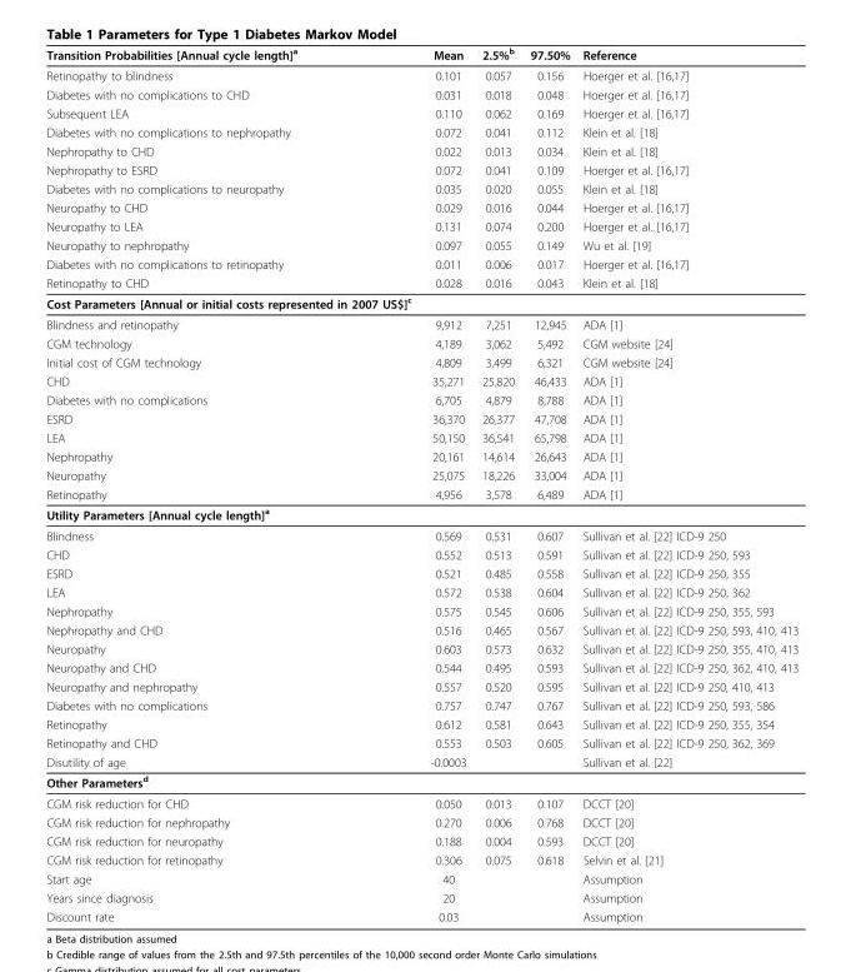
<table><thead><tr><td>Transition Probabilities [Annual cycle length]<sup>a</sup></td><td>Mean</td><td>2.5%<sup>b</sup></td><td>97.50%</td><td>Reference</td></tr></thead><tbody><tr><td>Retinopathy to blindness</td><td>0.101</td><td>0.057</td><td>0.156</td><td>Hoerger et al. [16,17]</td></tr><tr><td>Diabetes with no complications to CHD</td><td>0.031</td><td>0.018</td><td>0.048</td><td>Hoerger et al. [16,17]</td></tr><tr><td>Subsequent LEA</td><td>0.110</td><td>0.062</td><td>0.169</td><td>Hoerger et al. [16,17]</td></tr><tr><td>Diabetes with no complications to nephropathy</td><td>0.072</td><td>0.041</td><td>0.112</td><td>Klein et al. [18]</td></tr><tr><td>Nephropathy to CHD</td><td>0.022</td><td>0.013</td><td>0.034</td><td>Klein et al. [18]</td></tr><tr><td>Nephropathy to ESRD</td><td>0.072</td><td>0.041</td><td>0.109</td><td>Hoerger et al. [16,17]</td></tr><tr><td>Diabetes with no complications to neuropathy</td><td>0.035</td><td>0.020</td><td>0.055</td><td>Klein et al. [18]</td></tr><tr><td>Neuropathy to CHD</td><td>0.029</td><td>0.016</td><td>0.044</td><td>Hoerger et al. [16,17]</td></tr><tr><td>Neuropathy to LEA</td><td>0.131</td><td>0.074</td><td>0.200</td><td>Hoerger et al. [16,17]</td></tr><tr><td>Neuropathy to nephropathy</td><td>0.097</td><td>0.055</td><td>0.149</td><td>Wu et al. [19]</td></tr><tr><td>Diabetes with no complications to retinopathy</td><td>0.011</td><td>0.006</td><td>0.017</td><td>Hoerger et al. [16,17]</td></tr><tr><td>Retinopathy to CHD</td><td>0.028</td><td>0.016</td><td>0.043</td><td>Klein et al. [18]</td></tr><tr><td colspan="5">Cost Parameters [Annual or initial costs represented in 2007 US$]<sup>c</sup></td></tr><tr><td>Blindness and retinopathy</td><td>9,912</td><td>7,251</td><td>12,945</td><td>ADA [1]</td></tr><tr><td>CGM technology</td><td>4,189</td><td>3,062</td><td>5,492</td><td>CGM website [24]</td></tr><tr><td>Initial cost of CGM technology</td><td>4,809</td><td>3,499</td><td>6,321</td><td>CGM website [24]</td></tr><tr><td>CHD</td><td>35,271</td><td>25,820</td><td>46,433</td><td>ADA [1]</td></tr><tr><td>Diabetes with no complications</td><td>6,705</td><td>4,879</td><td>8,788</td><td>ADA [1]</td></tr><tr><td>ESRD</td><td>36,370</td><td>26,377</td><td>47,708</td><td>ADA [1]</td></tr><tr><td>LEA</td><td>50,150</td><td>36,541</td><td>65,798</td><td>ADA [1]</td></tr><tr><td>Nephropathy</td><td>20,161</td><td>14,614</td><td>26,643</td><td>ADA [1]</td></tr><tr><td>Neuropathy</td><td>25,075</td><td>18,226</td><td>33,004</td><td>ADA [1]</td></tr><tr><td>Retinopathy</td><td>4,956</td><td>3,578</td><td>6,489</td><td>ADA [1]</td></tr><tr><td colspan="5">Utility Parameters [Annual cycle length]<sup>a</sup></td></tr><tr><td>Blindness</td><td>0.569</td><td>0.531</td><td>0.607</td><td>Sullivan et al. [22] ICD-9 250</td></tr><tr><td>CHD</td><td>0.552</td><td>0.513</td><td>0.591</td><td>Sullivan et al. [22] ICD-9 250, 593</td></tr><tr><td>ESRD</td><td>0.521</td><td>0.485</td><td>0.558</td><td>Sullivan et al. [22] ICD-9 250, 355</td></tr><tr><td>LEA</td><td>0.572</td><td>0.538</td><td>0.604</td><td>Sullivan et al. [22] ICD-9 250, 362</td></tr><tr><td>Nephropathy</td><td>0.575</td><td>0.545</td><td>0.606</td><td>Sullivan et al. [22] ICD-9 250, 355, 593</td></tr><tr><td>Nephropathy and CHD</td><td>0.516</td><td>0.465</td><td>0.567</td><td>Sullivan et al. [22] ICD-9 250, 593, 410, 413</td></tr><tr><td>Neuropathy</td><td>0.603</td><td>0.573</td><td>0.632</td><td>Sullivan et al. [22] ICD-9 250, 355, 410, 413</td></tr><tr><td>Neuropathy and CHD</td><td>0.544</td><td>0.495</td><td>0.593</td><td>Sullivan et al. [22] ICD-9 250, 362, 410, 413</td></tr><tr><td>Neuropathy and nephropathy</td><td>0.557</td><td>0.520</td><td>0.595</td><td>Sullivan et al. [22] ICD-9 250, 410, 413</td></tr><tr><td>Diabetes with no complications</td><td>0.757</td><td>0.747</td><td>0.767</td><td>Sullivan et al. [22] ICD-9 250, 593, 586</td></tr><tr><td>Retinopathy</td><td>0.612</td><td>0.581</td><td>0.643</td><td>Sullivan et al. [22] ICD-9 250, 355, 354</td></tr><tr><td>Retinopathy and CHD</td><td>0.553</td><td>0.503</td><td>0.605</td><td>Sullivan et al. [22] ICD-9 250, 362, 369</td></tr><tr><td>Disutility of age</td><td>-0.0003</td><td></td><td></td><td>Sullivan et al. [22]</td></tr><tr><td colspan="5">Other Parameters<sup>d</sup></td></tr><tr><td>CGM risk reduction for CHD</td><td>0.050</td><td>0.013</td><td>0.107</td><td>DCCT [20]</td></tr><tr><td>CGM risk reduction for nephropathy</td><td>0.270</td><td>0.006</td><td>0.768</td><td>DCCT [20]</td></tr><tr><td>CGM risk reduction for neuropathy</td><td>0.188</td><td>0.004</td><td>0.593</td><td>DCCT [20]</td></tr><tr><td>CGM risk reduction for retinopathy</td><td>0.306</td><td>0.075</td><td>0.618</td><td>Selvin et al. [21]</td></tr><tr><td>Start age</td><td>40</td><td></td><td></td><td>Assumption</td></tr><tr><td>Years since diagnosis</td><td>20</td><td></td><td></td><td>Assumption</td></tr><tr><td>Discount rate</td><td>0.03</td><td></td><td></td><td>Assumption</td></tr></tbody></table>